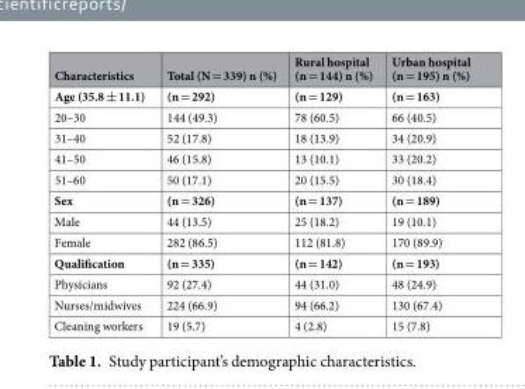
<table><thead><tr><td>Characteristics</td><td>Total (N = 339) n (%)</td><td>Rural hospital (n = 144) n (%)</td><td>Urban hospital (n = 195) n (%)</td></tr></thead><tbody><tr><td>Age (35.8 ± 11.1)</td><td>(n = 292)</td><td>(n = 129)</td><td>(n = 163)</td></tr><tr><td>20–30</td><td>144 (49.3)</td><td>78 (60.5)</td><td>66 (40.5)</td></tr><tr><td>31–40</td><td>52 (17.8)</td><td>18 (13.9)</td><td>34 (20.9)</td></tr><tr><td>41–50</td><td>46 (15.8)</td><td>13 (10.1)</td><td>33 (20.2)</td></tr><tr><td>51–60</td><td>50 (17.1)</td><td>20 (15.5)</td><td>30 (18.4)</td></tr><tr><td>Sex</td><td>(n = 326)</td><td>(n = 137)</td><td>(n = 189)</td></tr><tr><td>Male</td><td>44 (13.5)</td><td>25 (18.2)</td><td>19 (10.1)</td></tr><tr><td>Female</td><td>282 (86.5)</td><td>112 (81.8)</td><td>170 (89.9)</td></tr><tr><td>Qualification</td><td>(n = 335)</td><td>(n = 142)</td><td>(n = 193)</td></tr><tr><td>Physicians</td><td>92 (27.4)</td><td>44 (31.0)</td><td>48 (24.9)</td></tr><tr><td>Nurses/midwives</td><td>224 (66.9)</td><td>94 (66.2)</td><td>130 (67.4)</td></tr><tr><td>Cleaning workers</td><td>19 (5.7)</td><td>4 (2.8)</td><td>15 (7.8)</td></tr></tbody></table>